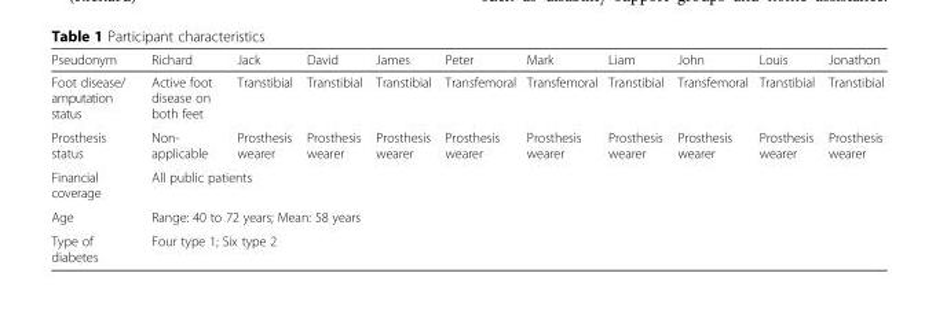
<table><thead><tr><td>Pseudonym</td><td>Richard</td><td>Jack</td><td>David</td><td>James</td><td>Peter</td><td>Mark</td><td>Liam</td><td>John</td><td>Louis</td><td>Jonathon</td></tr></thead><tbody><tr><td>Foot disease/ amputation status</td><td>Active foot disease on both feet</td><td>Transtibial</td><td>Transtibial</td><td>Transtibial</td><td>Transfemoral</td><td>Transfemoral</td><td>Transtibial</td><td>Transfemoral</td><td>Transtibial</td><td>Transtibial</td></tr><tr><td>Prosthesis status</td><td>Non- applicable</td><td>Prosthesis wearer</td><td>Prosthesis wearer</td><td>Prosthesis wearer</td><td>Prosthesis wearer</td><td>Prosthesis wearer</td><td>Prosthesis wearer</td><td>Prosthesis wearer</td><td>Prosthesis wearer</td><td>Prosthesis wearer</td></tr><tr><td>Financial coverage</td><td colspan="10">All public patients</td></tr><tr><td>Age</td><td colspan="10">Range: 40 to 72 years; Mean: 58 years</td></tr><tr><td>Type of diabetes</td><td colspan="10">Four type 1; Six type 2</td></tr></tbody></table>